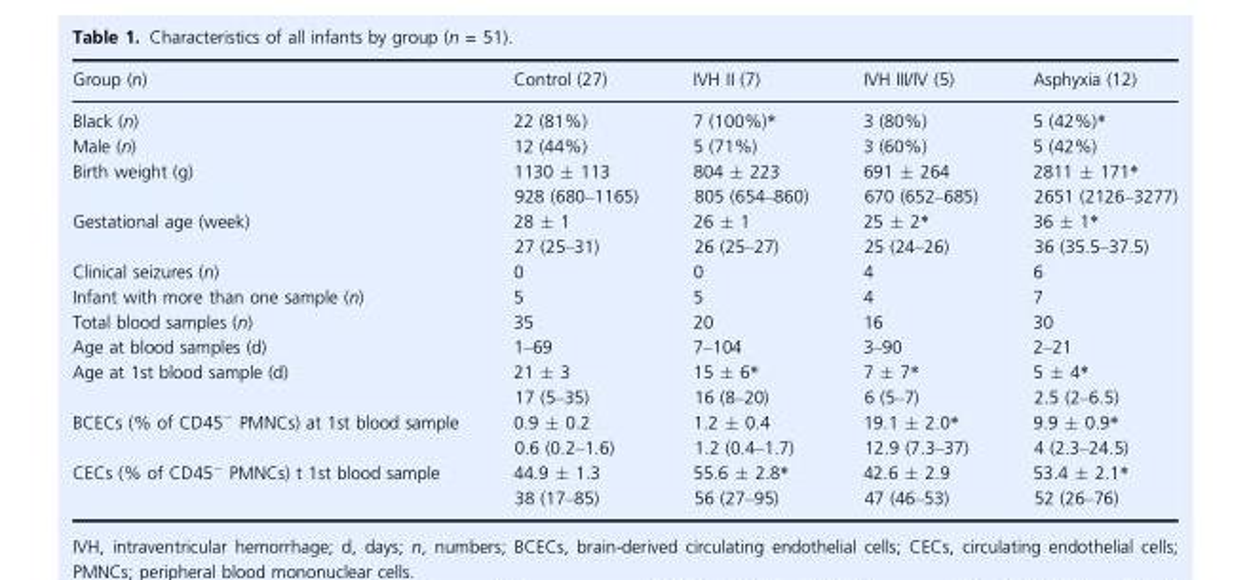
<table><thead><tr><td>Group (n)</td><td>Control (27)</td><td>IVH II (7)</td><td>IVH III/IV (5)</td><td>Asphyxia (12)</td></tr></thead><tbody><tr><td>Black (n)</td><td>22 (81%)</td><td>7 (100%)*</td><td>3 (80%)</td><td>5 (42%)*</td></tr><tr><td>Male (n)</td><td>12 (44%)</td><td>5 (71%)</td><td>3 (60%)</td><td>5 (42%)</td></tr><tr><td>Birth weight (g)</td><td>1130 ± 113 928 (680–1165)</td><td>804 ± 223 805 (654–860)</td><td>691 ± 264 670 (652–685)</td><td>2811 ± 171* 2651 (2126–3277)</td></tr><tr><td>Gestational age (week)</td><td>28 ± 1 27 (25–31)</td><td>26 ± 1 26 (25–27)</td><td>25 ± 2* 25 (24–26)</td><td>36 ± 1* 36 (35.5–37.5)</td></tr><tr><td>Clinical seizures (n)</td><td>0</td><td>0</td><td>4</td><td>6</td></tr><tr><td>Infant with more than one sample (n)</td><td>5</td><td>5</td><td>4</td><td>7</td></tr><tr><td>Total blood samples (n)</td><td>35</td><td>20</td><td>16</td><td>30</td></tr><tr><td>Age at blood samples (d)</td><td>1–69</td><td>7–104</td><td>3–90</td><td>2–21</td></tr><tr><td>Age at 1st blood sample (d)</td><td>21 ± 3 17 (5–35)</td><td>15 ± 6* 16 (8–20)</td><td>7 ± 7* 6 (5–7)</td><td>5 ± 4* 2.5 (2–6.5)</td></tr><tr><td>BCECs (% of CD45<sup>−</sup> PMNCs) at 1st blood sample</td><td>0.9 ± 0.2 0.6 (0.2–1.6)</td><td>1.2 ± 0.4 1.2 (0.4–1.7)</td><td>19.1 ± 2.0* 12.9 (7.3–37)</td><td>9.9 ± 0.9* 4 (2.3–24.5)</td></tr><tr><td>CECs (% of CD45<sup>−</sup> PMNCs) t 1st blood sample</td><td>44.9 ± 1.3 38 (17–85)</td><td>55.6 ± 2.8* 56 (27–95)</td><td>42.6 ± 2.9 47 (46–53)</td><td>53.4 ± 2.1* 52 (26–76)</td></tr></tbody></table>